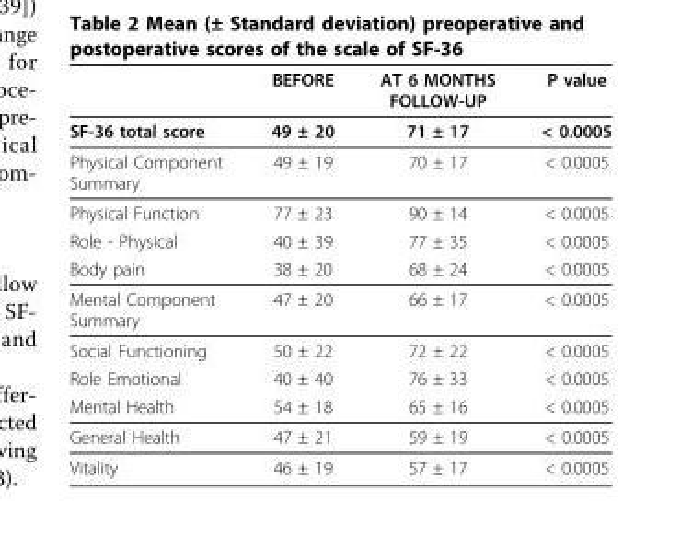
<table><thead><tr><td></td><td>BEFORE</td><td>AT 6 MONTHS FOLLOW-UP</td><td>P value</td></tr></thead><tbody><tr><td>SF-36 total score</td><td>49 ± 20</td><td>71 ± 17</td><td>&lt; 0.0005</td></tr><tr><td>Physical Component Summary</td><td>49 ± 19</td><td>70 ± 17</td><td>&lt; 0.0005</td></tr><tr><td>Physical Function</td><td>77 ± 23</td><td>90 ± 14</td><td>&lt; 0.0005</td></tr><tr><td>Role - Physical</td><td>40 ± 39</td><td>77 ± 35</td><td>&lt; 0.0005</td></tr><tr><td>Body pain</td><td>38 ± 20</td><td>68 ± 24</td><td>&lt; 0.0005</td></tr><tr><td>Mental Component Summary</td><td>47 ± 20</td><td>66 ± 17</td><td>&lt; 0.0005</td></tr><tr><td>Social Functioning</td><td>50 ± 22</td><td>72 ± 22</td><td>&lt; 0.0005</td></tr><tr><td>Role Emotional</td><td>40 ± 40</td><td>76 ± 33</td><td>&lt; 0.0005</td></tr><tr><td>Mental Health</td><td>54 ± 18</td><td>65 ± 16</td><td>&lt; 0.0005</td></tr><tr><td>General Health</td><td>47 ± 21</td><td>59 ± 19</td><td>&lt; 0.0005</td></tr><tr><td>Vitality</td><td>46 ± 19</td><td>57 ± 17</td><td>&lt; 0.0005</td></tr></tbody></table>